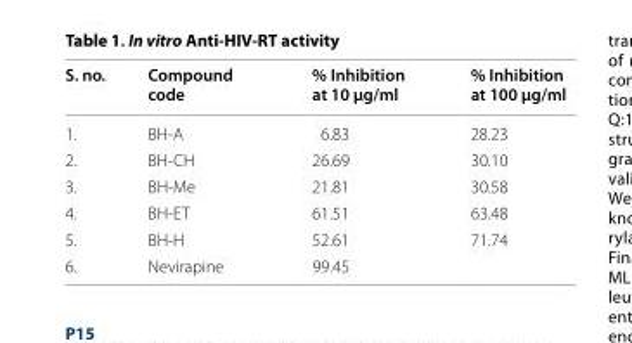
<table><thead><tr><td>S. no.</td><td>Compound code</td><td>% Inhibition at 10 µg/ml</td><td>% Inhibition at 100 µg/ml</td></tr></thead><tbody><tr><td>1.</td><td>BH-A</td><td>6.83</td><td>28.23</td></tr><tr><td>2.</td><td>BH-CH</td><td>26.69</td><td>30.10</td></tr><tr><td>3.</td><td>BH-Me</td><td>21.81</td><td>30.58</td></tr><tr><td>4.</td><td>BH-ET</td><td>61.51</td><td>63.48</td></tr><tr><td>5.</td><td>BH-H</td><td>52.61</td><td>71.74</td></tr><tr><td>6.</td><td>Nevirapine</td><td>99.45</td><td></td></tr></tbody></table>